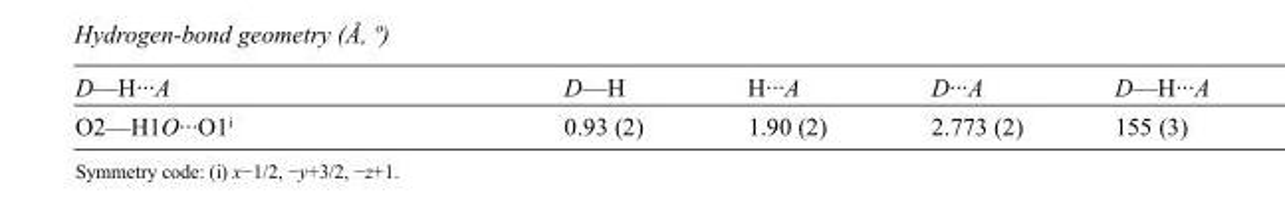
<table><tbody><tr><td>D—H···A</td><td>D—H</td><td>H···A</td><td>D···A</td><td>D—H···A</td></tr><tr><td>O2—H1O···O1<sup>i</sup></td><td>0.93 (2)</td><td>1.90 (2)</td><td>2.773 (2)</td><td>155 (3)</td></tr></tbody></table>